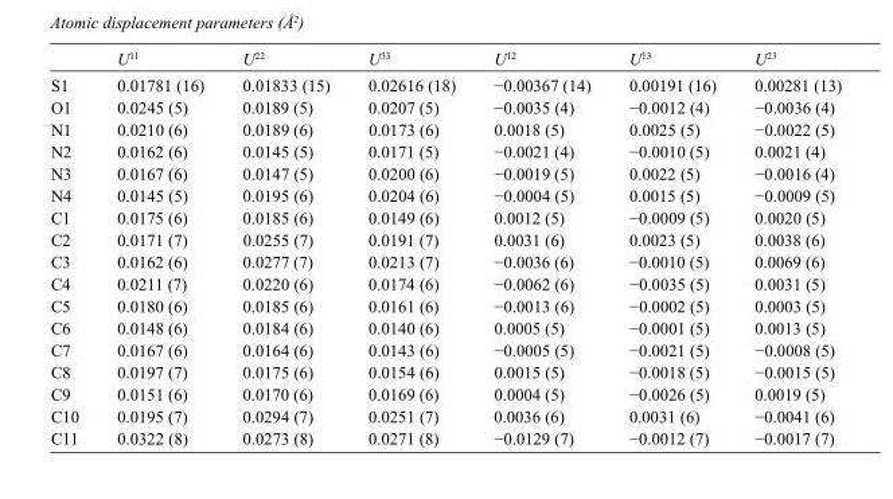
<table><thead><tr><td></td><td>U<sup>11</sup></td><td>U<sup>22</sup></td><td>U<sup>33</sup></td><td>U<sup>12</sup></td><td>U<sup>13</sup></td><td>U<sup>23</sup></td></tr></thead><tbody><tr><td>S1</td><td>0.01781 (16)</td><td>0.01833 (15)</td><td>0.02616 (18)</td><td>−0.00367 (14)</td><td>0.00191 (16)</td><td>0.00281 (13)</td></tr><tr><td>O1</td><td>0.0245 (5)</td><td>0.0189 (5)</td><td>0.0207 (5)</td><td>−0.0035 (4)</td><td>−0.0012 (4)</td><td>−0.0036 (4)</td></tr><tr><td>N1</td><td>0.0210 (6)</td><td>0.0189 (6)</td><td>0.0173 (6)</td><td>0.0018 (5)</td><td>0.0025 (5)</td><td>−0.0022 (5)</td></tr><tr><td>N2</td><td>0.0162 (6)</td><td>0.0145 (5)</td><td>0.0171 (5)</td><td>−0.0021 (4)</td><td>−0.0010 (5)</td><td>0.0021 (4)</td></tr><tr><td>N3</td><td>0.0167 (6)</td><td>0.0147 (5)</td><td>0.0200 (6)</td><td>−0.0019 (5)</td><td>0.0022 (5)</td><td>−0.0016 (4)</td></tr><tr><td>N4</td><td>0.0145 (5)</td><td>0.0195 (6)</td><td>0.0204 (6)</td><td>−0.0004 (5)</td><td>0.0015 (5)</td><td>−0.0009 (5)</td></tr><tr><td>C1</td><td>0.0175 (6)</td><td>0.0185 (6)</td><td>0.0149 (6)</td><td>0.0012 (5)</td><td>−0.0009 (5)</td><td>0.0020 (5)</td></tr><tr><td>C2</td><td>0.0171 (7)</td><td>0.0255 (7)</td><td>0.0191 (7)</td><td>0.0031 (6)</td><td>0.0023 (5)</td><td>0.0038 (6)</td></tr><tr><td>C3</td><td>0.0162 (6)</td><td>0.0277 (7)</td><td>0.0213 (7)</td><td>−0.0036 (6)</td><td>−0.0010 (5)</td><td>0.0069 (6)</td></tr><tr><td>C4</td><td>0.0211 (7)</td><td>0.0220 (6)</td><td>0.0174 (6)</td><td>−0.0062 (6)</td><td>−0.0035 (5)</td><td>0.0031 (5)</td></tr><tr><td>C5</td><td>0.0180 (6)</td><td>0.0185 (6)</td><td>0.0161 (6)</td><td>−0.0013 (6)</td><td>−0.0002 (5)</td><td>0.0003 (5)</td></tr><tr><td>C6</td><td>0.0148 (6)</td><td>0.0184 (6)</td><td>0.0140 (6)</td><td>0.0005 (5)</td><td>−0.0001 (5)</td><td>0.0013 (5)</td></tr><tr><td>C7</td><td>0.0167 (6)</td><td>0.0164 (6)</td><td>0.0143 (6)</td><td>−0.0005 (5)</td><td>−0.0021 (5)</td><td>−0.0008 (5)</td></tr><tr><td>C8</td><td>0.0197 (7)</td><td>0.0175 (6)</td><td>0.0154 (6)</td><td>0.0015 (5)</td><td>−0.0018 (5)</td><td>−0.0015 (5)</td></tr><tr><td>C9</td><td>0.0151 (6)</td><td>0.0170 (6)</td><td>0.0169 (6)</td><td>0.0004 (5)</td><td>−0.0026 (5)</td><td>0.0019 (5)</td></tr><tr><td>C10</td><td>0.0195 (7)</td><td>0.0294 (7)</td><td>0.0251 (7)</td><td>0.0036 (6)</td><td>0.0031 (6)</td><td>−0.0041 (6)</td></tr><tr><td>C11</td><td>0.0322 (8)</td><td>0.0273 (8)</td><td>0.0271 (8)</td><td>−0.0129 (7)</td><td>−0.0012 (7)</td><td>−0.0017 (7)</td></tr></tbody></table>